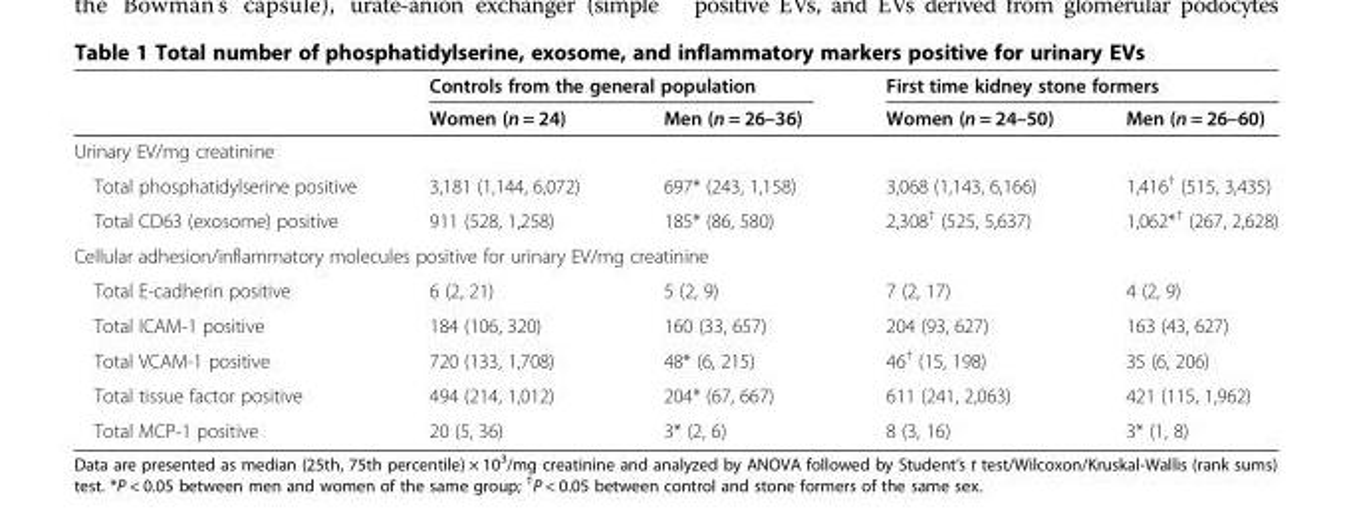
<table><thead><tr><td rowspan="2"></td><td colspan="2">Controls from the general population</td><td colspan="2">First time kidney stone formers</td></tr><tr><td>Women (n = 24)</td><td>Men (n = 26–36)</td><td>Women (n = 24–50)</td><td>Men (n = 26–60)</td></tr></thead><tbody><tr><td colspan="5">Urinary EV/mg creatinine</td></tr><tr><td>Total phosphatidylserine positive</td><td>3,181 (1,144, 6,072)</td><td>697* (243, 1,158)</td><td>3,068 (1,143, 6,166)</td><td>1,416<sup>†</sup> (515, 3,435)</td></tr><tr><td>Total CD63 (exosome) positive</td><td>911 (528, 1,258)</td><td>185* (86, 580)</td><td>2,308<sup>†</sup> (525, 5,637)</td><td>1,062*<sup>†</sup> (267, 2,628)</td></tr><tr><td colspan="5">Cellular adhesion/inflammatory molecules positive for urinary EV/mg creatinine</td></tr><tr><td>Total E-cadherin positive</td><td>6 (2, 21)</td><td>5 (2, 9)</td><td>7 (2, 17)</td><td>4 (2, 9)</td></tr><tr><td>Total ICAM-1 positive</td><td>184 (106, 320)</td><td>160 (33, 657)</td><td>204 (93, 627)</td><td>163 (43, 627)</td></tr><tr><td>Total VCAM-1 positive</td><td>720 (133, 1,708)</td><td>48* (6, 215)</td><td>46<sup>†</sup> (15, 198)</td><td>35 (6, 206)</td></tr><tr><td>Total tissue factor positive</td><td>494 (214, 1,012)</td><td>204* (67, 667)</td><td>611 (241, 2,063)</td><td>421 (115, 1,962)</td></tr><tr><td>Total MCP-1 positive</td><td>20 (5, 36)</td><td>3* (2, 6)</td><td>8 (3, 16)</td><td>3* (1, 8)</td></tr></tbody></table>